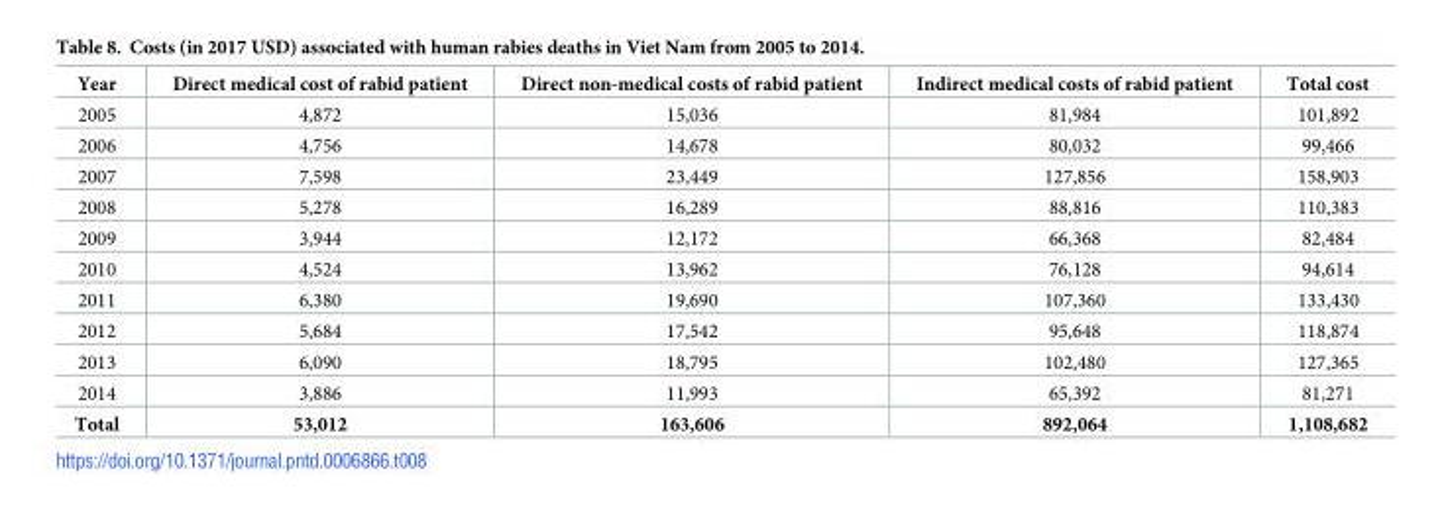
<table><thead><tr><td>Year</td><td>Direct medical cost of rabid patient</td><td>Direct non-medical costs of rabid patient</td><td>Indirect medical costs of rabid patient</td><td>Total cost</td></tr></thead><tbody><tr><td>2005</td><td>4,872</td><td>15,036</td><td>81,984</td><td>101,892</td></tr><tr><td>2006</td><td>4,756</td><td>14,678</td><td>80,032</td><td>99,466</td></tr><tr><td>2007</td><td>7,598</td><td>23,449</td><td>127,856</td><td>158,903</td></tr><tr><td>2008</td><td>5,278</td><td>16,289</td><td>88,816</td><td>110,383</td></tr><tr><td>2009</td><td>3,944</td><td>12,172</td><td>66,368</td><td>82,484</td></tr><tr><td>2010</td><td>4,524</td><td>13,962</td><td>76,128</td><td>94,614</td></tr><tr><td>2011</td><td>6,380</td><td>19,690</td><td>107,360</td><td>133,430</td></tr><tr><td>2012</td><td>5,684</td><td>17,542</td><td>95,648</td><td>118,874</td></tr><tr><td>2013</td><td>6,090</td><td>18,795</td><td>102,480</td><td>127,365</td></tr><tr><td>2014</td><td>3,886</td><td>11,993</td><td>65,392</td><td>81,271</td></tr><tr><td>Total</td><td>53,012</td><td>163,606</td><td>892,064</td><td>1,108,682</td></tr></tbody></table>